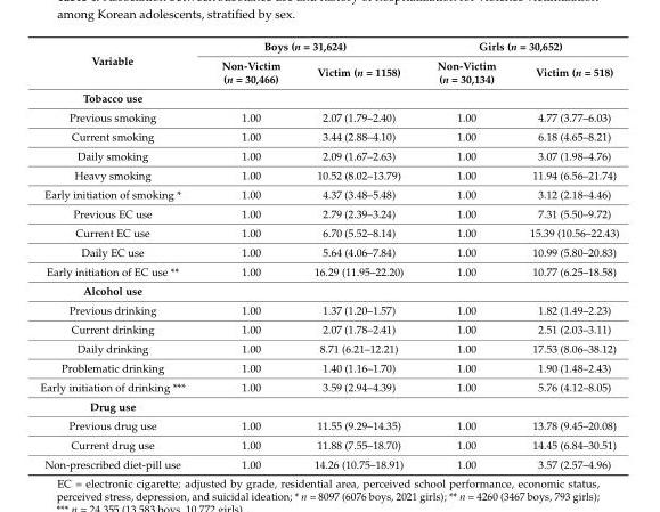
<table><thead><tr><td rowspan="2">Variable</td><td colspan="2">Boys (n = 31,624)</td><td colspan="2">Girls (n = 30,652)</td></tr><tr><td>Non-Victim (n = 30,466)</td><td>Victim (n = 1158)</td><td>Non-Victim (n = 30,134)</td><td>Victim (n = 518)</td></tr></thead><tbody><tr><td colspan="5">Tobacco use</td></tr><tr><td>Previous smoking</td><td>1.00</td><td>2.07 (1.79–2.40)</td><td>1.00</td><td>4.77 (3.77–6.03)</td></tr><tr><td>Current smoking</td><td>1.00</td><td>3.44 (2.88–4.10)</td><td>1.00</td><td>6.18 (4.65–8.21)</td></tr><tr><td>Daily smoking</td><td>1.00</td><td>2.09 (1.67–2.63)</td><td>1.00</td><td>3.07 (1.98–4.76)</td></tr><tr><td>Heavy smoking</td><td>1.00</td><td>10.52 (8.02–13.79)</td><td>1.00</td><td>11.94 (6.56–21.74)</td></tr><tr><td>Early initiation of smoking *</td><td>1.00</td><td>4.37 (3.48–5.48)</td><td>1.00</td><td>3.12 (2.18–4.46)</td></tr><tr><td>Previous EC use</td><td>1.00</td><td>2.79 (2.39–3.24)</td><td>1.00</td><td>7.31 (5.50–9.72)</td></tr><tr><td>Current EC use</td><td>1.00</td><td>6.70 (5.52–8.14)</td><td>1.00</td><td>15.39 (10.56–22.43)</td></tr><tr><td>Daily EC use</td><td>1.00</td><td>5.64 (4.06–7.84)</td><td>1.00</td><td>10.99 (5.80–20.83)</td></tr><tr><td>Early initiation of EC use **</td><td>1.00</td><td>16.29 (11.95–22.20)</td><td>1.00</td><td>10.77 (6.25–18.58)</td></tr><tr><td colspan="5">Alcohol use</td></tr><tr><td>Previous drinking</td><td>1.00</td><td>1.37 (1.20–1.57)</td><td>1.00</td><td>1.82 (1.49–2.23)</td></tr><tr><td>Current drinking</td><td>1.00</td><td>2.07 (1.78–2.41)</td><td>1.00</td><td>2.51 (2.03–3.11)</td></tr><tr><td>Daily drinking</td><td>1.00</td><td>8.71 (6.21–12.21)</td><td>1.00</td><td>17.53 (8.06–38.12)</td></tr><tr><td>Problematic drinking</td><td>1.00</td><td>1.40 (1.16–1.70)</td><td>1.00</td><td>1.90 (1.48–2.43)</td></tr><tr><td>Early initiation of drinking ***</td><td>1.00</td><td>3.59 (2.94–4.39)</td><td>1.00</td><td>5.76 (4.12–8.05)</td></tr><tr><td colspan="5">Drug use</td></tr><tr><td>Previous drug use</td><td>1.00</td><td>11.55 (9.29–14.35)</td><td>1.00</td><td>13.78 (9.45–20.08)</td></tr><tr><td>Current drug use</td><td>1.00</td><td>11.88 (7.55–18.70)</td><td>1.00</td><td>14.45 (6.84–30.51)</td></tr><tr><td>Non-prescribed diet-pill use</td><td>1.00</td><td>14.26 (10.75–18.91)</td><td>1.00</td><td>3.57 (2.57–4.96)</td></tr></tbody></table>